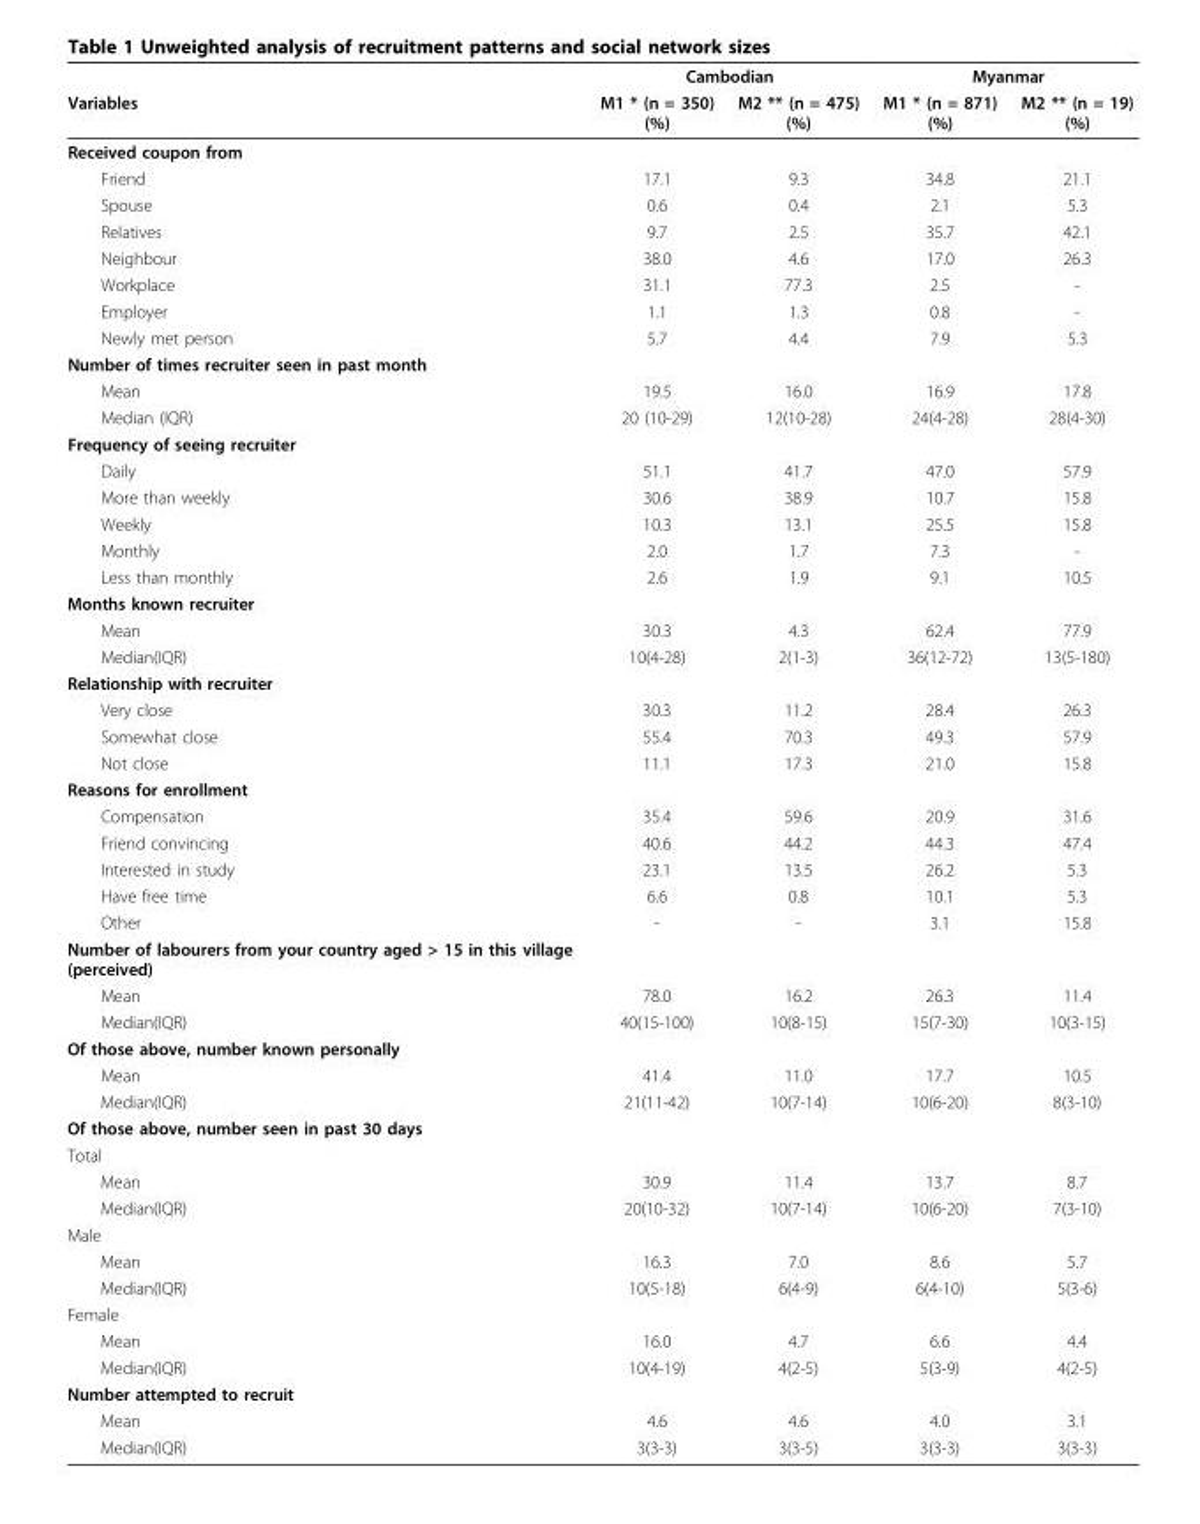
<table><thead><tr><td rowspan="2">Variables</td><td colspan="2">Cambodian</td><td colspan="2">Myanmar</td></tr><tr><td>M1 * (n = 350) (%)</td><td>M2 ** (n = 475) (%)</td><td>M1 * (n = 871) (%)</td><td>M2 ** (n = 19) (%)</td></tr></thead><tbody><tr><td colspan="5">Received coupon from</td></tr><tr><td>Friend</td><td>17.1</td><td>9.3</td><td>34.8</td><td>21.1</td></tr><tr><td>Spouse</td><td>0.6</td><td>0.4</td><td>2.1</td><td>5.3</td></tr><tr><td>Relatives</td><td>9.7</td><td>2.5</td><td>35.7</td><td>42.1</td></tr><tr><td>Neighbour</td><td>38.0</td><td>4.6</td><td>17.0</td><td>26.3</td></tr><tr><td>Workplace</td><td>31.1</td><td>77.3</td><td>2.5</td><td>-</td></tr><tr><td>Employer</td><td>1.1</td><td>1.3</td><td>0.8</td><td>-</td></tr><tr><td>Newly met person</td><td>5.7</td><td>4.4</td><td>7.9</td><td>5.3</td></tr><tr><td colspan="5">Number of times recruiter seen in past month</td></tr><tr><td>Mean</td><td>19.5</td><td>16.0</td><td>16.9</td><td>17.8</td></tr><tr><td>Median (IQR)</td><td>20 (10-29)</td><td>12(10-28)</td><td>24(4-28)</td><td>28(4-30)</td></tr><tr><td colspan="5">Frequency of seeing recruiter</td></tr><tr><td>Daily</td><td>51.1</td><td>41.7</td><td>47.0</td><td>57.9</td></tr><tr><td>More than weekly</td><td>30.6</td><td>38.9</td><td>10.7</td><td>15.8</td></tr><tr><td>Weekly</td><td>10.3</td><td>13.1</td><td>25.5</td><td>15.8</td></tr><tr><td>Monthly</td><td>2.0</td><td>1.7</td><td>7.3</td><td>-</td></tr><tr><td>Less than monthly</td><td>2.6</td><td>1.9</td><td>9.1</td><td>10.5</td></tr><tr><td colspan="5">Months known recruiter</td></tr><tr><td>Mean</td><td>30.3</td><td>4.3</td><td>62.4</td><td>77.9</td></tr><tr><td>Median(IQR)</td><td>10(4-28)</td><td>2(1-3)</td><td>36(12-72)</td><td>13(5-180)</td></tr><tr><td colspan="5">Relationship with recruiter</td></tr><tr><td>Very close</td><td>30.3</td><td>11.2</td><td>28.4</td><td>26.3</td></tr><tr><td>Somewhat close</td><td>55.4</td><td>70.3</td><td>49.3</td><td>57.9</td></tr><tr><td>Not close</td><td>11.1</td><td>17.3</td><td>21.0</td><td>15.8</td></tr><tr><td colspan="5">Reasons for enrollment</td></tr><tr><td>Compensation</td><td>35.4</td><td>59.6</td><td>20.9</td><td>31.6</td></tr><tr><td>Friend convincing</td><td>40.6</td><td>44.2</td><td>44.3</td><td>47.4</td></tr><tr><td>Interested in study</td><td>23.1</td><td>13.5</td><td>26.2</td><td>5.3</td></tr><tr><td>Have free time</td><td>6.6</td><td>0.8</td><td>10.1</td><td>5.3</td></tr><tr><td>Other</td><td>-</td><td>-</td><td>3.1</td><td>15.8</td></tr><tr><td colspan="5">Number of labourers from your country aged &gt; 15 in this village (perceived)</td></tr><tr><td>Mean</td><td>78.0</td><td>16.2</td><td>26.3</td><td>11.4</td></tr><tr><td>Median(IQR)</td><td>40(15-100)</td><td>10(8-15)</td><td>15(7-30)</td><td>10(3-15)</td></tr><tr><td colspan="5">Of those above, number known personally</td></tr><tr><td>Mean</td><td>41.4</td><td>11.0</td><td>17.7</td><td>10.5</td></tr><tr><td>Median(IQR)</td><td>21(11-42)</td><td>10(7-14)</td><td>10(6-20)</td><td>8(3-10)</td></tr><tr><td colspan="5">Of those above, number seen in past 30 days</td></tr><tr><td colspan="5">Total</td></tr><tr><td>Mean</td><td>30.9</td><td>11.4</td><td>13.7</td><td>8.7</td></tr><tr><td>Median(IQR)</td><td>20(10-32)</td><td>10(7-14)</td><td>10(6-20)</td><td>7(3-10)</td></tr><tr><td colspan="5">Male</td></tr><tr><td>Mean</td><td>16.3</td><td>7.0</td><td>8.6</td><td>5.7</td></tr><tr><td>Median(IQR)</td><td>10(5-18)</td><td>6(4-9)</td><td>6(4-10)</td><td>5(3-6)</td></tr><tr><td colspan="5">Female</td></tr><tr><td>Mean</td><td>16.0</td><td>4.7</td><td>6.6</td><td>4.4</td></tr><tr><td>Median(IQR)</td><td>10(4-19)</td><td>4(2-5)</td><td>5(3-9)</td><td>4(2-5)</td></tr><tr><td colspan="5">Number attempted to recruit</td></tr><tr><td>Mean</td><td>4.6</td><td>4.6</td><td>4.0</td><td>3.1</td></tr><tr><td>Median(IQR)</td><td>3(3-3)</td><td>3(3-5)</td><td>3(3-3)</td><td>3(3-3)</td></tr></tbody></table>